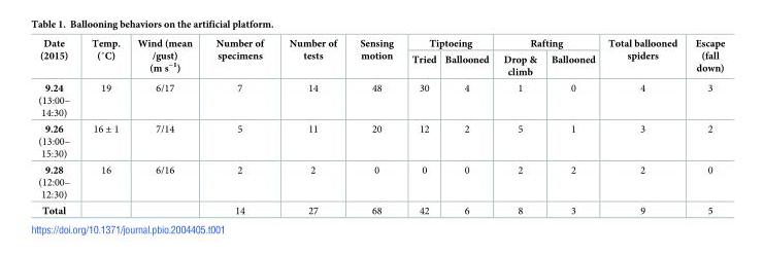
<table><thead><tr><td rowspan="2">Date (2015)</td><td rowspan="2">Temp. (˚C)</td><td rowspan="2">Wind (mean /gust) (m s<sup>−1</sup>)</td><td rowspan="2">Number of specimens</td><td rowspan="2">Number of tests</td><td rowspan="2">Sensing motion</td><td colspan="2">Tiptoeing</td><td colspan="2">Rafting</td><td rowspan="2">Total ballooned spiders</td><td rowspan="2">Escape (fall down)</td></tr><tr><td>Tried</td><td>Ballooned</td><td>Drop &amp; climb</td><td>Ballooned</td></tr></thead><tbody><tr><td>9.24 (13:00– 14:30)</td><td>19</td><td>6/17</td><td>7</td><td>14</td><td>48</td><td>30</td><td>4</td><td>1</td><td>0</td><td>4</td><td>3</td></tr><tr><td>9.26 (13:00– 15:30)</td><td>16 ± 1</td><td>7/14</td><td>5</td><td>11</td><td>20</td><td>12</td><td>2</td><td>5</td><td>1</td><td>3</td><td>2</td></tr><tr><td>9.28 (12:00– 12:30)</td><td>16</td><td>6/16</td><td>2</td><td>2</td><td>0</td><td>0</td><td>0</td><td>2</td><td>2</td><td>2</td><td>0</td></tr><tr><td>Total</td><td></td><td></td><td>14</td><td>27</td><td>68</td><td>42</td><td>6</td><td>8</td><td>3</td><td>9</td><td>5</td></tr></tbody></table>